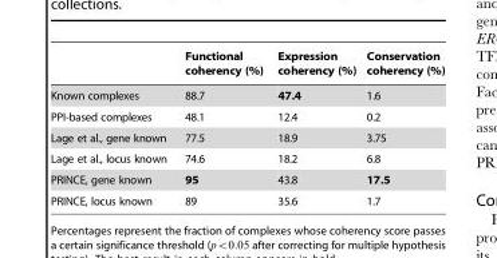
<table><thead><tr><td></td><td>Functional coherency (%)</td><td>Expression coherency (%)</td><td>Conservation coherency (%)</td></tr></thead><tbody><tr><td>Known complexes</td><td>88.7</td><td>47.4</td><td>1.6</td></tr><tr><td>PPI-based complexes</td><td>48.1</td><td>12.4</td><td>0.2</td></tr><tr><td>Lage et al., gene known</td><td>77.5</td><td>18.9</td><td>3.75</td></tr><tr><td>Lage et al., locus known</td><td>74.6</td><td>18.2</td><td>6.8</td></tr><tr><td>PRINCE, gene known</td><td>95</td><td>43.8</td><td>17.5</td></tr><tr><td>PRINCE, locus known</td><td>89</td><td>35.6</td><td>1.7</td></tr></tbody></table>